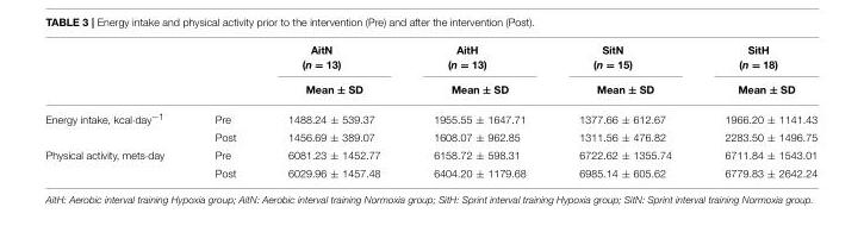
<table><thead><tr><td rowspan="2"></td><td rowspan="2"></td><td rowspan="2">AitN (n = 13) Mean ± SD</td><td rowspan="2">AitH (n = 13) Mean ± SD</td><td rowspan="2">SitN (n = 15) Mean ± SD</td><td rowspan="2">SitH (n = 18) Mean ± SD</td></tr><tr></tr></thead><tbody><tr><td rowspan="2">Energy intake, kcal·day<sup>−1</sup></td><td>Pre</td><td>1488.24 ± 539.37</td><td>1955.55 ± 1647.71</td><td>1377.66 ± 612.67</td><td>1966.20 ± 1141.43</td></tr><tr><td>Post</td><td>1456.69 ± 389.07</td><td>1608.07 ± 962.85</td><td>1311.56 ± 476.82</td><td>2283.50 ± 1496.75</td></tr><tr><td rowspan="2">Physical activity, mets·day</td><td>Pre</td><td>6081.23 ± 1452.77</td><td>6158.72 ± 598.31</td><td>6722.62 ± 1355.74</td><td>6711.84 ± 1543.01</td></tr><tr><td>Post</td><td>6029.96 ± 1457.48</td><td>6404.20 ± 1179.68</td><td>6985.14 ± 605.62</td><td>6779.83 ± 2642.24</td></tr></tbody></table>